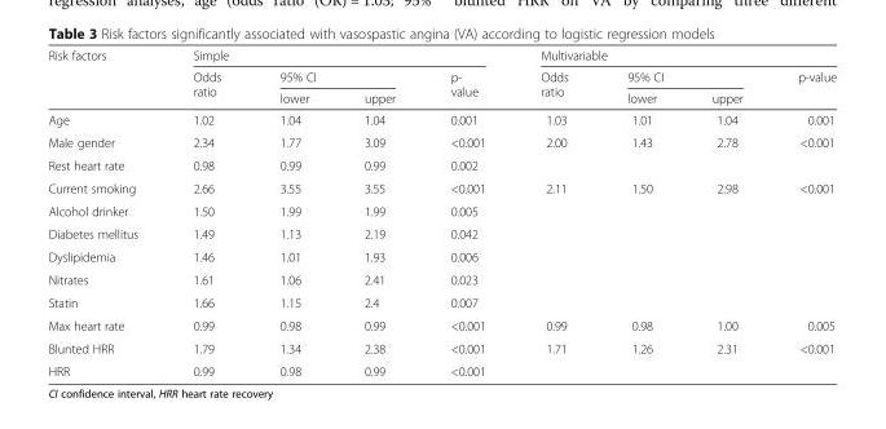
<table><thead><tr><td rowspan="3">Risk factors</td><td colspan="4">Simple</td><td colspan="4">Multivariable</td></tr><tr><td rowspan="2">Odds ratio</td><td colspan="2">95% CI</td><td rowspan="2">p- value</td><td rowspan="2">Odds ratio</td><td colspan="2">95% CI</td><td rowspan="2">p-value</td></tr><tr><td>lower</td><td>upper</td><td>lower</td><td>upper</td></tr></thead><tbody><tr><td>Age</td><td>1.02</td><td>1.04</td><td>1.04</td><td>0.001</td><td>1.03</td><td>1.01</td><td>1.04</td><td>0.001</td></tr><tr><td>Male gender</td><td>2.34</td><td>1.77</td><td>3.09</td><td>&lt;0.001</td><td>2.00</td><td>1.43</td><td>2.78</td><td>&lt;0.001</td></tr><tr><td>Rest heart rate</td><td>0.98</td><td>0.99</td><td>0.99</td><td>0.002</td><td></td><td></td><td></td><td></td></tr><tr><td>Current smoking</td><td>2.66</td><td>3.55</td><td>3.55</td><td>&lt;0.001</td><td>2.11</td><td>1.50</td><td>2.98</td><td>&lt;0.001</td></tr><tr><td>Alcohol drinker</td><td>1.50</td><td>1.99</td><td>1.99</td><td>0.005</td><td></td><td></td><td></td><td></td></tr><tr><td>Diabetes mellitus</td><td>1.49</td><td>1.13</td><td>2.19</td><td>0.042</td><td></td><td></td><td></td><td></td></tr><tr><td>Dyslipidemia</td><td>1.46</td><td>1.01</td><td>1.93</td><td>0.006</td><td></td><td></td><td></td><td></td></tr><tr><td>Nitrates</td><td>1.61</td><td>1.06</td><td>2.41</td><td>0.023</td><td></td><td></td><td></td><td></td></tr><tr><td>Statin</td><td>1.66</td><td>1.15</td><td>2.4</td><td>0.007</td><td></td><td></td><td></td><td></td></tr><tr><td>Max heart rate</td><td>0.99</td><td>0.98</td><td>0.99</td><td>&lt;0.001</td><td>0.99</td><td>0.98</td><td>1.00</td><td>0.005</td></tr><tr><td>Blunted HRR</td><td>1.79</td><td>1.34</td><td>2.38</td><td>&lt;0.001</td><td>1.71</td><td>1.26</td><td>2.31</td><td>&lt;0.001</td></tr><tr><td>HRR</td><td>0.99</td><td>0.98</td><td>0.99</td><td>&lt;0.001</td><td></td><td></td><td></td><td></td></tr></tbody></table>